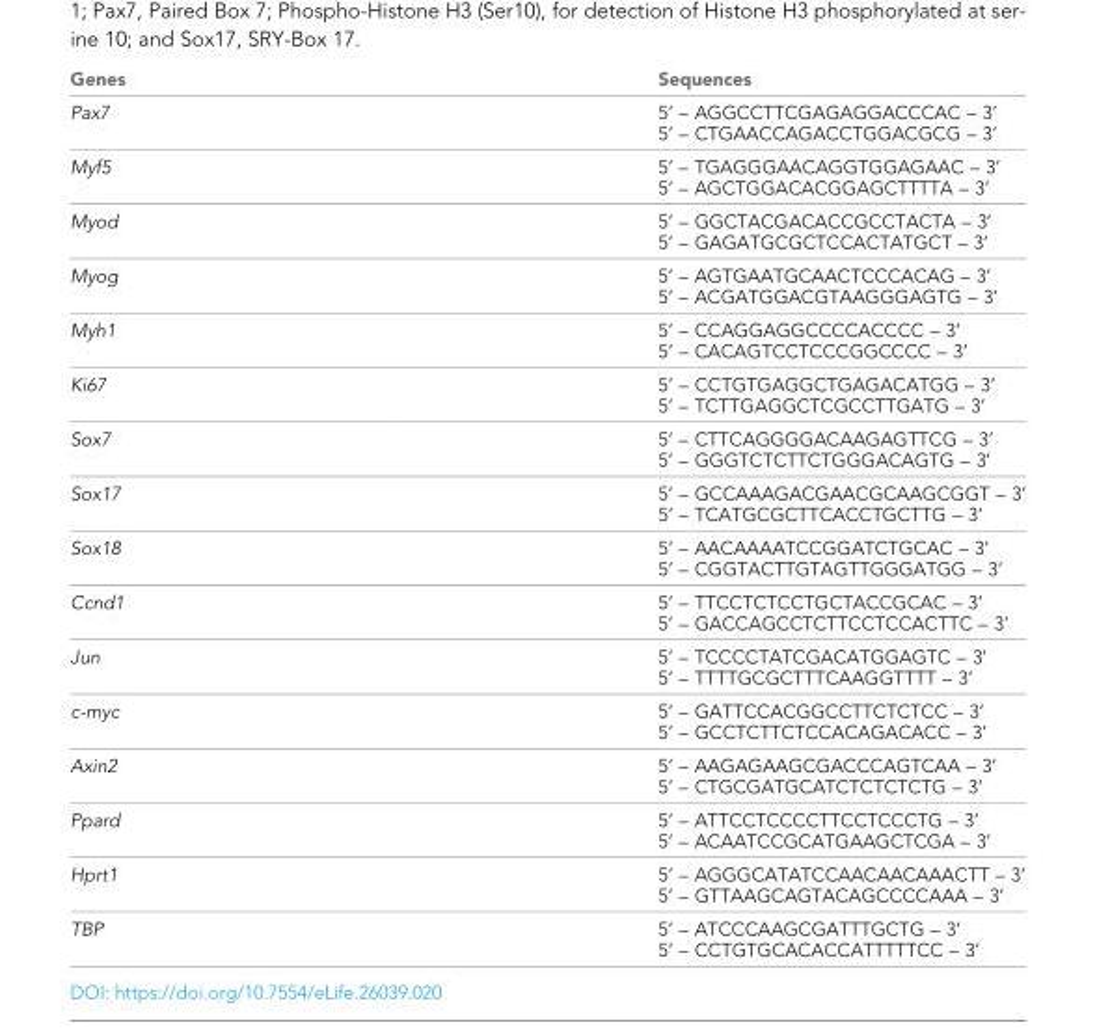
<table><thead><tr><td>Genes</td><td>Sequences</td></tr></thead><tbody><tr><td>Pax7</td><td>5’ – AGGCCTTCGAGAGGACCCAC – 3’ 5’ – CTGAACCAGACCTGGACGCG – 3’</td></tr><tr><td>Myf5</td><td>5’ – TGAGGGAACAGGTGGAGAAC – 3’ 5’ – AGCTGGACACGGAGCTTTTA – 3’</td></tr><tr><td>Myod</td><td>5’ – GGCTACGACACCGCCTACTA – 3’ 5’ – GAGATGCGCTCCACTATGCT – 3’</td></tr><tr><td>Myog</td><td>5’ – AGTGAATGCAACTCCCACAG – 3’ 5’ – ACGATGGACGTAAGGGAGTG – 3’</td></tr><tr><td>Myh1</td><td>5’ – CCAGGAGGCCCCACCCC – 3’ 5’ – CACAGTCCTCCCGGCCCC – 3’</td></tr><tr><td>Ki67</td><td>5’ – CCTGTGAGGCTGAGACATGG – 3’ 5’ – TCTTGAGGCTCGCCTTGATG – 3’</td></tr><tr><td>Sox7</td><td>5’ – CTTCAGGGGACAAGAGTTCG – 3’ 5’ – GGGTCTCTTCTGGGACAGTG – 3’</td></tr><tr><td>Sox17</td><td>5’ – GCCAAAGACGAACGCAAGCGGT – 3’ 5’ – TCATGCGCTTCACCTGCTTG – 3’</td></tr><tr><td>Sox18</td><td>5’ – AACAAAATCCGGATCTGCAC – 3’ 5’ – CGGTACTTGTAGTTGGGATGG – 3’</td></tr><tr><td>Ccnd1</td><td>5’ – TTCCTCTCCTGCTACCGCAC – 3’ 5’ – GACCAGCCTCTTCCTCCACTTC – 3’</td></tr><tr><td>Jun</td><td>5’ – TCCCCTATCGACATGGAGTC – 3’ 5’ – TTTTGCGCTTTCAAGGTTTT – 3’</td></tr><tr><td>c-myc</td><td>5’ – GATTCCACGGCCTTCTCTCC – 3’ 5’ – GCCTCTTCTCCACAGACACC – 3’</td></tr><tr><td>Axin2</td><td>5’ – AAGAGAAGCGACCCAGTCAA – 3’ 5’ – CTGCGATGCATCTCTCTCTG – 3’</td></tr><tr><td>Ppard</td><td>5’ – ATTCCTCCCCTTCCTCCCTG – 3’ 5’ – ACAATCCGCATGAAGCTCGA – 3’</td></tr><tr><td>Hprt1</td><td>5’ – AGGGCATATCCAACAACAAACTT – 3’ 5’ – GTTAAGCAGTACAGCCCCAAA – 3’</td></tr><tr><td>TBP</td><td>5’ – ATCCCAAGCGATTTGCTG – 3’ 5’ – CCTGTGCACACCATTTTTCC – 3’</td></tr></tbody></table>